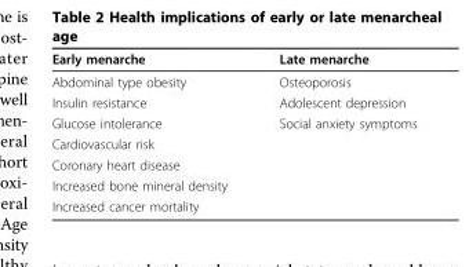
<table><thead><tr><td>Early menarche</td><td>Late menarche</td></tr></thead><tbody><tr><td>Abdominal type obesity</td><td>Osteoporosis</td></tr><tr><td>Insulin resistance</td><td>Adolescent depression</td></tr><tr><td>Glucose intolerance</td><td>Social anxiety symptoms</td></tr><tr><td colspan="2">Cardiovascular risk</td></tr><tr><td colspan="2">Coronary heart disease</td></tr><tr><td colspan="2">Increased bone mineral density</td></tr><tr><td>Increased cancer mortality</td><td></td></tr></tbody></table>